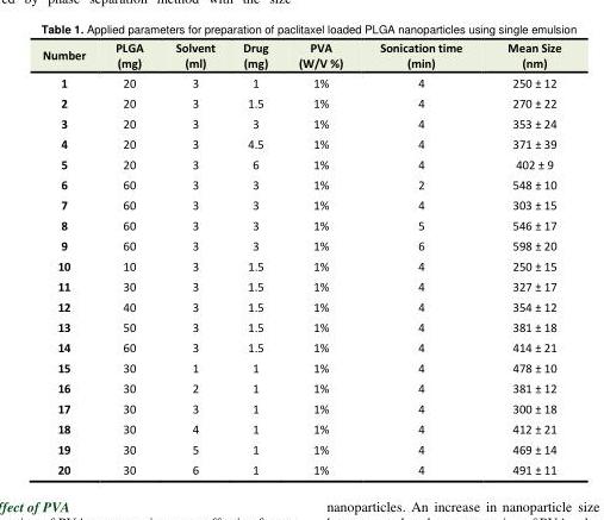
<table><tbody><tr><td>Number</td><td>PLGA (mg)</td><td>Solvent (ml)</td><td>Drug (mg)</td><td>PVA (W/V %)</td><td>Sonication time (min)</td><td>Mean Size (nm)</td></tr><tr><td>1</td><td>20</td><td>3</td><td>1</td><td>1%</td><td>4</td><td>250 ± 12</td></tr><tr><td>2</td><td>20</td><td>3</td><td>1.5</td><td>1%</td><td>4</td><td>270 ± 22</td></tr><tr><td>3</td><td>20</td><td>3</td><td>3</td><td>1%</td><td>4</td><td>353 ± 24</td></tr><tr><td>4</td><td>20</td><td>3</td><td>4.5</td><td>1%</td><td>4</td><td>371 ± 39</td></tr><tr><td>5</td><td>20</td><td>3</td><td>6</td><td>1%</td><td>4</td><td>402 ± 9</td></tr><tr><td>6</td><td>60</td><td>3</td><td>3</td><td>1%</td><td>2</td><td>548 ± 10</td></tr><tr><td>7</td><td>60</td><td>3</td><td>3</td><td>1%</td><td>4</td><td>303 ± 15</td></tr><tr><td>8</td><td>60</td><td>3</td><td>3</td><td>1%</td><td>5</td><td>546 ± 17</td></tr><tr><td>9</td><td>60</td><td>3</td><td>3</td><td>1%</td><td>6</td><td>598 ± 20</td></tr><tr><td>10</td><td>10</td><td>3</td><td>1.5</td><td>1%</td><td>4</td><td>250 ± 15</td></tr><tr><td>11</td><td>30</td><td>3</td><td>1.5</td><td>1%</td><td>4</td><td>327 ± 17</td></tr><tr><td>12</td><td>40</td><td>3</td><td>1.5</td><td>1%</td><td>4</td><td>354 ± 12</td></tr><tr><td>13</td><td>50</td><td>3</td><td>1.5</td><td>1%</td><td>4</td><td>381 ± 18</td></tr><tr><td>14</td><td>60</td><td>3</td><td>1.5</td><td>1%</td><td>4</td><td>414 ± 21</td></tr><tr><td>15</td><td>30</td><td>1</td><td>1</td><td>1%</td><td>4</td><td>478 ± 10</td></tr><tr><td>16</td><td>30</td><td>2</td><td>1</td><td>1%</td><td>4</td><td>381 ± 12</td></tr><tr><td>17</td><td>30</td><td>3</td><td>1</td><td>1%</td><td>4</td><td>300 ± 18</td></tr><tr><td>18</td><td>30</td><td>4</td><td>1</td><td>1%</td><td>4</td><td>412 ± 21</td></tr><tr><td>19</td><td>30</td><td>5</td><td>1</td><td>1%</td><td>4</td><td>469 ± 14</td></tr><tr><td>20</td><td>30</td><td>6</td><td>1</td><td>1%</td><td>4</td><td>491 ± 11</td></tr></tbody></table>